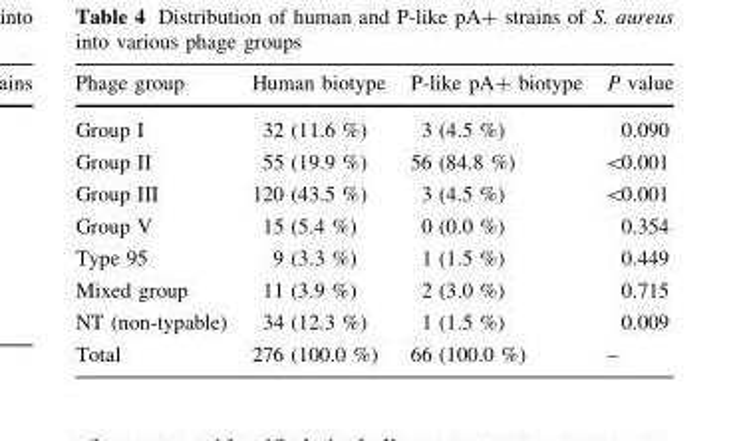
<table><thead><tr><td>Phage group</td><td>Human biotype</td><td>P-like pA+ biotype</td><td>P value</td></tr></thead><tbody><tr><td>Group I</td><td>32 (11.6 %)</td><td>3 (4.5 %)</td><td>0.090</td></tr><tr><td>Group II</td><td>55 (19.9 %)</td><td>56 (84.8 %)</td><td>&lt;0.001</td></tr><tr><td>Group III</td><td>120 (43.5 %)</td><td>3 (4.5 %)</td><td>&lt;0.001</td></tr><tr><td>Group V</td><td>15 (5.4 %)</td><td>0 (0.0 %)</td><td>0.354</td></tr><tr><td>Type 95</td><td>9 (3.3 %)</td><td>1 (1.5 %)</td><td>0.449</td></tr><tr><td>Mixed group</td><td>11 (3.9 %)</td><td>2 (3.0 %)</td><td>0.715</td></tr><tr><td>NT (non-typable)</td><td>34 (12.3 %)</td><td>1 (1.5 %)</td><td>0.009</td></tr><tr><td>Total</td><td>276 (100.0 %)</td><td>66 (100.0 %)</td><td>–</td></tr></tbody></table>